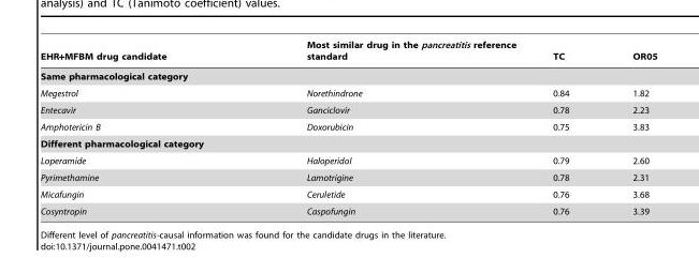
<table><thead><tr><td>EHR+MFBM drug candidate</td><td>Most similar drug in the pancreatitis reference standard</td><td>TC</td><td>OR05</td></tr></thead><tbody><tr><td colspan="4">Same pharmacological category</td></tr><tr><td>Megestrol</td><td>Norethindrone</td><td>0.84</td><td>1.82</td></tr><tr><td>Entecavir</td><td>Ganciclovir</td><td>0.78</td><td>2.23</td></tr><tr><td>Amphotericin B</td><td>Doxorubicin</td><td>0.75</td><td>3.83</td></tr><tr><td colspan="4">Different pharmacological category</td></tr><tr><td>Loperamide</td><td>Haloperidol</td><td>0.79</td><td>2.60</td></tr><tr><td>Pyrimethamine</td><td>Lamotrigine</td><td>0.78</td><td>2.31</td></tr><tr><td>Micafungin</td><td>Ceruletide</td><td>0.76</td><td>3.68</td></tr><tr><td>Cosyntropin</td><td>Caspofungin</td><td>0.76</td><td>3.39</td></tr></tbody></table>